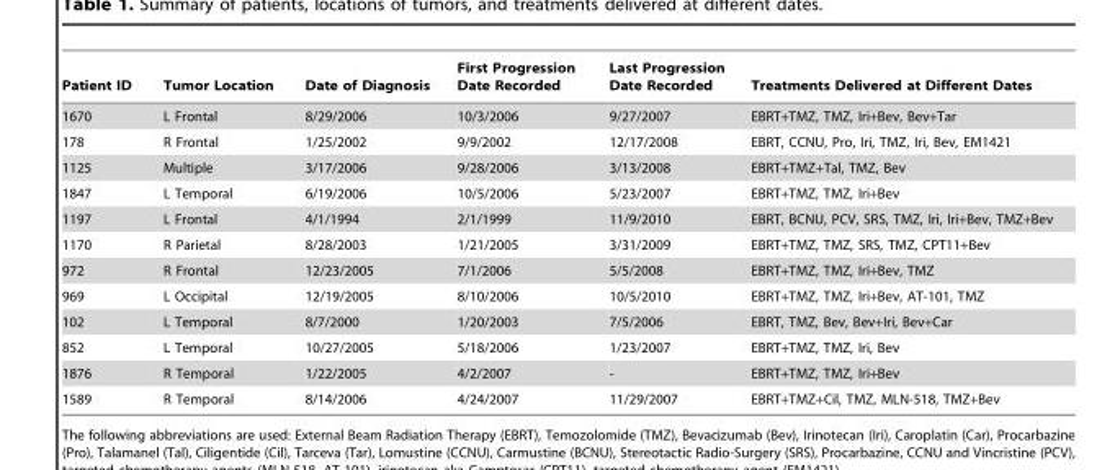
<table><thead><tr><td>Patient ID</td><td>Tumor Location</td><td>Date of Diagnosis</td><td>First Progression Date Recorded</td><td>Last Progression Date Recorded</td><td>Treatments Delivered at Different Dates</td></tr></thead><tbody><tr><td>1670</td><td>L Frontal</td><td>8/29/2006</td><td>10/3/2006</td><td>9/27/2007</td><td>EBRT+TMZ, TMZ, Iri+Bev, Bev+Tar</td></tr><tr><td>178</td><td>R Frontal</td><td>1/25/2002</td><td>9/9/2002</td><td>12/17/2008</td><td>EBRT, CCNU, Pro, Iri, TMZ, Iri, Bev, EM1421</td></tr><tr><td>1125</td><td>Multiple</td><td>3/17/2006</td><td>9/28/2006</td><td>3/13/2008</td><td>EBRT+TMZ+Tal, TMZ, Bev</td></tr><tr><td>1847</td><td>L Temporal</td><td>6/19/2006</td><td>10/5/2006</td><td>5/23/2007</td><td>EBRT+TMZ, TMZ, Iri+Bev</td></tr><tr><td>1197</td><td>L Frontal</td><td>4/1/1994</td><td>2/1/1999</td><td>11/9/2010</td><td>EBRT, BCNU, PCV, SRS, TMZ, Iri, Iri+Bev, TMZ+Bev</td></tr><tr><td>1170</td><td>R Parietal</td><td>8/28/2003</td><td>1/21/2005</td><td>3/31/2009</td><td>EBRT+TMZ, TMZ, SRS, TMZ, CPT11+Bev</td></tr><tr><td>972</td><td>R Frontal</td><td>12/23/2005</td><td>7/1/2006</td><td>5/5/2008</td><td>EBRT+TMZ, TMZ, Iri+Bev, TMZ</td></tr><tr><td>969</td><td>L Occipital</td><td>12/19/2005</td><td>8/10/2006</td><td>10/5/2010</td><td>EBRT+TMZ, TMZ, Iri+Bev, AT-101, TMZ</td></tr><tr><td>102</td><td>L Temporal</td><td>8/7/2000</td><td>1/20/2003</td><td>7/5/2006</td><td>EBRT, TMZ, Bev, Bev+Iri, Bev+Car</td></tr><tr><td>852</td><td>L Temporal</td><td>10/27/2005</td><td>5/18/2006</td><td>1/23/2007</td><td>EBRT+TMZ, TMZ, Iri, Bev</td></tr><tr><td>1876</td><td>R Temporal</td><td>1/22/2005</td><td>4/2/2007</td><td>-</td><td>EBRT+TMZ, TMZ, Iri+Bev</td></tr><tr><td>1589</td><td>R Temporal</td><td>8/14/2006</td><td>4/24/2007</td><td>11/29/2007</td><td>EBRT+TMZ+Cil, TMZ, MLN-518, TMZ+Bev</td></tr></tbody></table>